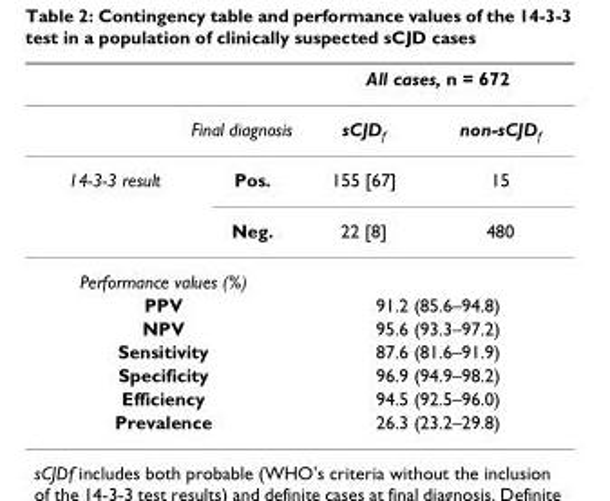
<table><thead><tr><td></td><td></td><td colspan="2">All cases, n = 672</td></tr><tr><td colspan="2">Final diagnosis</td><td>sCJDf</td><td>non-sCJDf</td></tr></thead><tbody><tr><td rowspan="2">14-3-3 result</td><td>Pos.</td><td>155 [67]</td><td>15</td></tr><tr><td>Neg.</td><td>22 [8]</td><td>480</td></tr><tr><td colspan="4">Performance values (%)</td></tr><tr><td colspan="2">PPV</td><td colspan="2">91.2 (85.6–94.8)</td></tr><tr><td colspan="2">NPV</td><td colspan="2">95.6 (93.3–97.2)</td></tr><tr><td colspan="2">Sensitivity</td><td colspan="2">87.6 (81.6–91.9)</td></tr><tr><td colspan="2">Specificity</td><td colspan="2">96.9 (94.9–98.2)</td></tr><tr><td colspan="2">Efficiency</td><td colspan="2">94.5 (92.5–96.0)</td></tr><tr><td colspan="2">Prevalence</td><td colspan="2">26.3 (23.2–29.8)</td></tr></tbody></table>